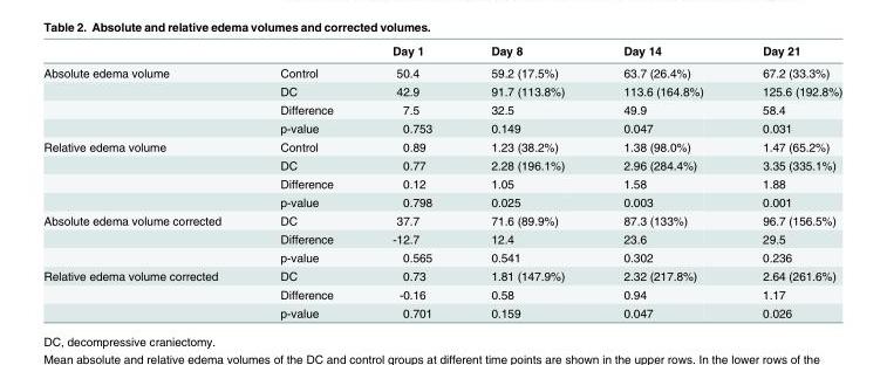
<table><thead><tr><td></td><td></td><td>Day 1</td><td>Day 8</td><td>Day 14</td><td>Day 21</td></tr></thead><tbody><tr><td rowspan="4">Absolute edema volume</td><td>Control</td><td>50.4</td><td>59.2 (17.5%)</td><td>63.7 (26.4%)</td><td>67.2 (33.3%)</td></tr><tr><td>DC</td><td>42.9</td><td>91.7 (113.8%)</td><td>113.6 (164.8%)</td><td>125.6 (192.8%)</td></tr><tr><td>Difference</td><td>7.5</td><td>32.5</td><td>49.9</td><td>58.4</td></tr><tr><td>p-value</td><td>0.753</td><td>0.149</td><td>0.047</td><td>0.031</td></tr><tr><td rowspan="4">Relative edema volume</td><td>Control</td><td>0.89</td><td>1.23 (38.2%)</td><td>1.38 (98.0%)</td><td>1.47 (65.2%)</td></tr><tr><td>DC</td><td>0.77</td><td>2.28 (196.1%)</td><td>2.96 (284.4%)</td><td>3.35 (335.1%)</td></tr><tr><td>Difference</td><td>0.12</td><td>1.05</td><td>1.58</td><td>1.88</td></tr><tr><td>p-value</td><td>0.798</td><td>0.025</td><td>0.003</td><td>0.001</td></tr><tr><td rowspan="3">Absolute edema volume corrected</td><td>DC</td><td>37.7</td><td>71.6 (89.9%)</td><td>87.3 (133%)</td><td>96.7 (156.5%)</td></tr><tr><td>Difference</td><td>-12.7</td><td>12.4</td><td>23.6</td><td>29.5</td></tr><tr><td>p-value</td><td>0.565</td><td>0.541</td><td>0.302</td><td>0.236</td></tr><tr><td rowspan="3">Relative edema volume corrected</td><td>DC</td><td>0.73</td><td>1.81 (147.9%)</td><td>2.32 (217.8%)</td><td>2.64 (261.6%)</td></tr><tr><td>Difference</td><td>-0.16</td><td>0.58</td><td>0.94</td><td>1.17</td></tr><tr><td>p-value</td><td>0.701</td><td>0.159</td><td>0.047</td><td>0.026</td></tr></tbody></table>